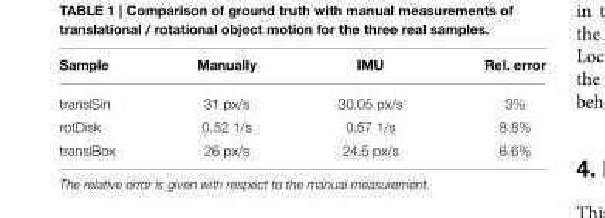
<table><thead><tr><td>Sample</td><td>Manually</td><td>IMU</td><td>Rel. error</td></tr></thead><tbody><tr><td>translSin</td><td>31 px/s</td><td>30.05 px/s</td><td>3%</td></tr><tr><td>rotDisk</td><td>0.52 1/s</td><td>0.57 1/s</td><td>8.8%</td></tr><tr><td>translBox</td><td>26 px/s</td><td>24.5 px/s</td><td>6.6%</td></tr></tbody></table>